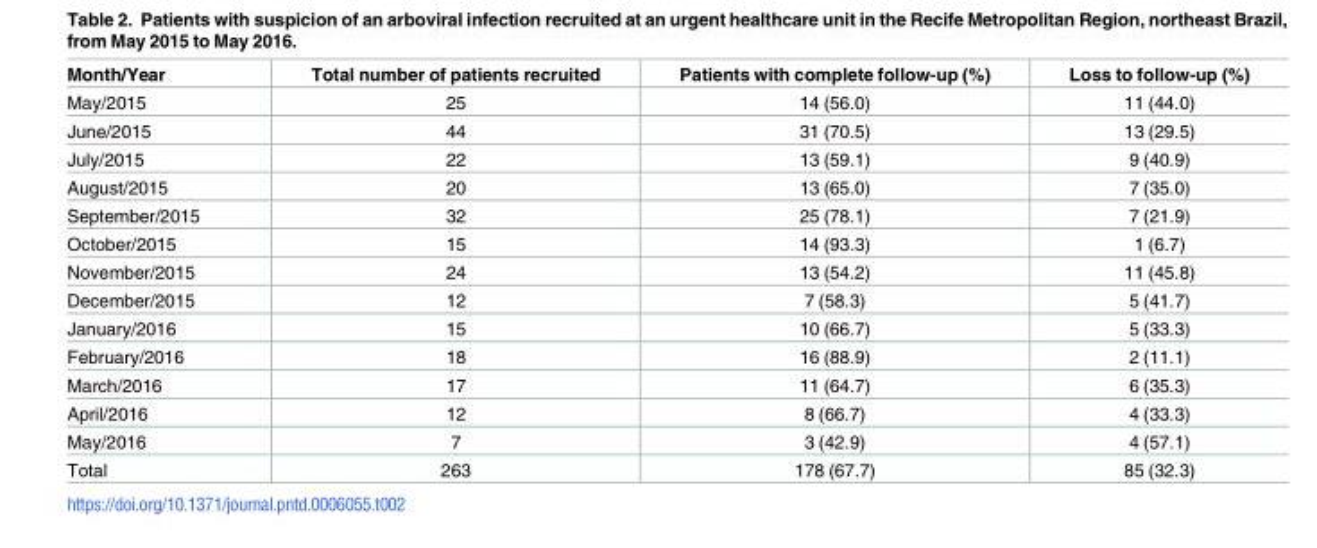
<table><thead><tr><td>Month/Year</td><td>Total number of patients recruited</td><td>Patients with complete follow-up (%)</td><td>Loss to follow-up (%)</td></tr></thead><tbody><tr><td>May/2015</td><td>25</td><td>14 (56.0)</td><td>11 (44.0)</td></tr><tr><td>June/2015</td><td>44</td><td>31 (70.5)</td><td>13 (29.5)</td></tr><tr><td>July/2015</td><td>22</td><td>13 (59.1)</td><td>9 (40.9)</td></tr><tr><td>August/2015</td><td>20</td><td>13 (65.0)</td><td>7 (35.0)</td></tr><tr><td>September/2015</td><td>32</td><td>25 (78.1)</td><td>7 (21.9)</td></tr><tr><td>October/2015</td><td>15</td><td>14 (93.3)</td><td>1 (6.7)</td></tr><tr><td>November/2015</td><td>24</td><td>13 (54.2)</td><td>11 (45.8)</td></tr><tr><td>December/2015</td><td>12</td><td>7 (58.3)</td><td>5 (41.7)</td></tr><tr><td>January/2016</td><td>15</td><td>10 (66.7)</td><td>5 (33.3)</td></tr><tr><td>February/2016</td><td>18</td><td>16 (88.9)</td><td>2 (11.1)</td></tr><tr><td>March/2016</td><td>17</td><td>11 (64.7)</td><td>6 (35.3)</td></tr><tr><td>April/2016</td><td>12</td><td>8 (66.7)</td><td>4 (33.3)</td></tr><tr><td>May/2016</td><td>7</td><td>3 (42.9)</td><td>4 (57.1)</td></tr><tr><td>Total</td><td>263</td><td>178 (67.7)</td><td>85 (32.3)</td></tr></tbody></table>